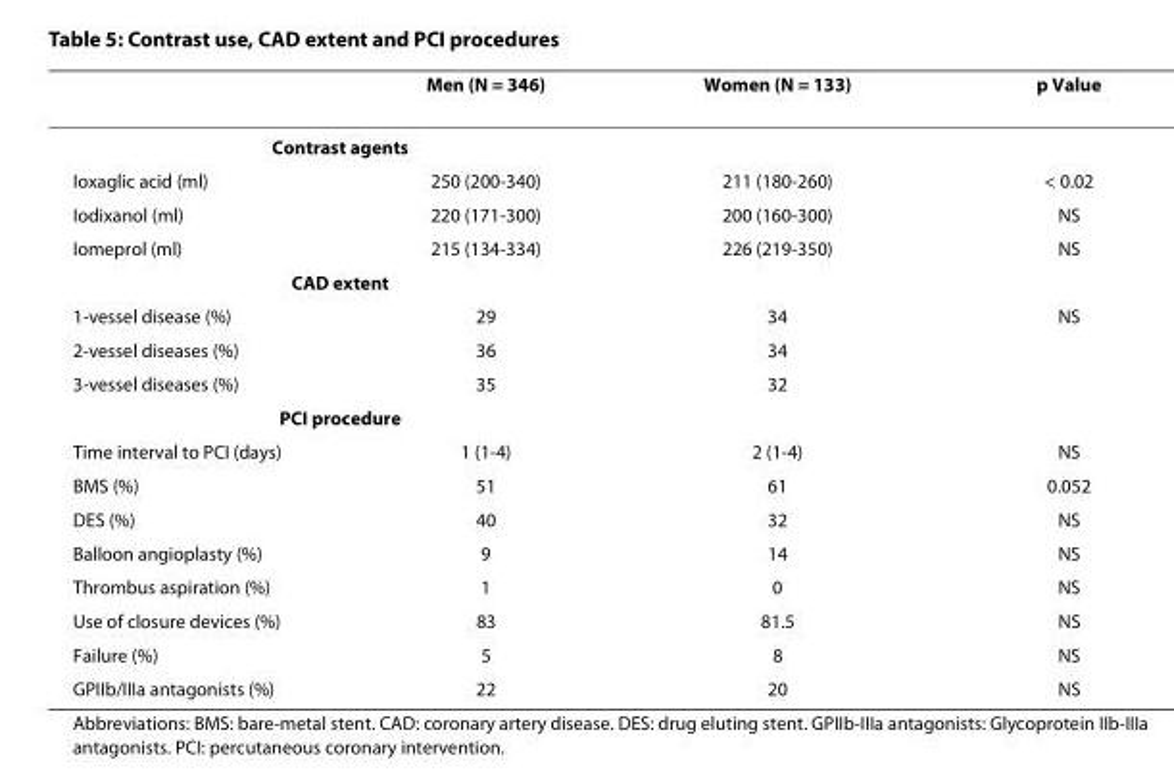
<table><thead><tr><td></td><td>Men (N = 346)</td><td>Women (N = 133)</td><td>p Value</td></tr></thead><tbody><tr><td colspan="4">Contrast agents</td></tr><tr><td>Ioxaglic acid (ml)</td><td>250 (200-340)</td><td>211 (180-260)</td><td>&lt; 0.02</td></tr><tr><td>Iodixanol (ml)</td><td>220 (171-300)</td><td>200 (160-300)</td><td>NS</td></tr><tr><td>Iomeprol (ml)</td><td>215 (134-334)</td><td>226 (219-350)</td><td>NS</td></tr><tr><td colspan="4">CAD extent</td></tr><tr><td>1-vessel disease (%)</td><td>29</td><td>34</td><td>NS</td></tr><tr><td>2-vessel diseases (%)</td><td>36</td><td>34</td><td></td></tr><tr><td>3-vessel diseases (%)</td><td>35</td><td>32</td><td></td></tr><tr><td colspan="4">PCI procedure</td></tr><tr><td>Time interval to PCI (days)</td><td>1 (1-4)</td><td>2 (1-4)</td><td>NS</td></tr><tr><td>BMS (%)</td><td>51</td><td>61</td><td>0.052</td></tr><tr><td>DES (%)</td><td>40</td><td>32</td><td>NS</td></tr><tr><td>Balloon angioplasty (%)</td><td>9</td><td>14</td><td>NS</td></tr><tr><td>Thrombus aspiration (%)</td><td>1</td><td>0</td><td>NS</td></tr><tr><td>Use of closure devices (%)</td><td>83</td><td>81.5</td><td>NS</td></tr><tr><td>Failure (%)</td><td>5</td><td>8</td><td>NS</td></tr><tr><td>GPIIb/IIIa antagonists (%)</td><td>22</td><td>20</td><td>NS</td></tr></tbody></table>